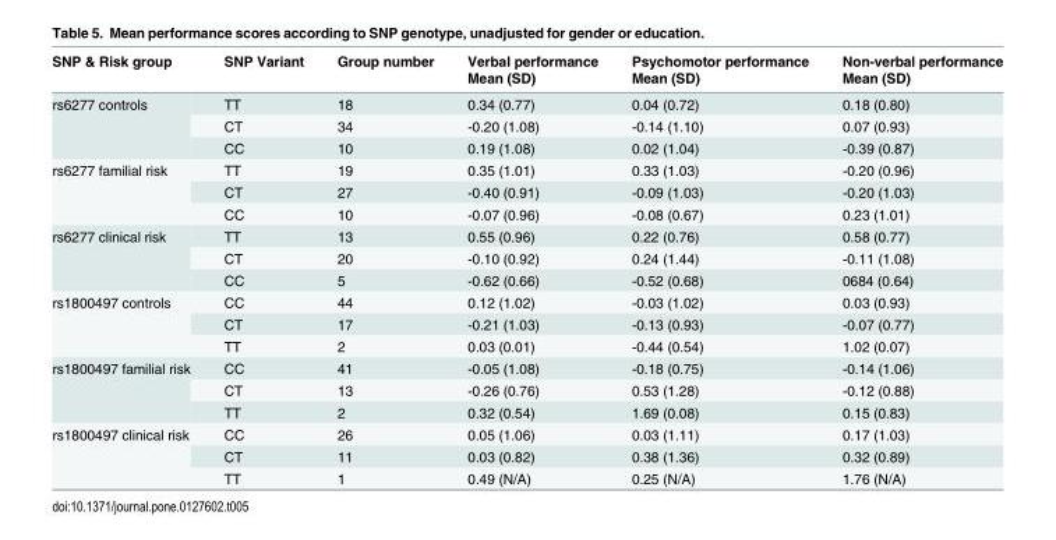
<table><thead><tr><td rowspan="2">SNP &amp; Risk group</td><td rowspan="2">SNP Variant</td><td rowspan="2">Group number</td><td rowspan="2">Verbal performance Mean (SD)</td><td rowspan="2">Psychomotor performance Mean (SD)</td><td rowspan="2">Non-verbal performance Mean (SD)</td></tr><tr></tr></thead><tbody><tr><td rowspan="3">rs6277 controls</td><td>TT</td><td>18</td><td>0.34 (0.77)</td><td>0.04 (0.72)</td><td>0.18 (0.80)</td></tr><tr><td>CT</td><td>34</td><td>-0.20 (1.08)</td><td>-0.14 (1.10)</td><td>0.07 (0.93)</td></tr><tr><td>CC</td><td>10</td><td>0.19 (1.08)</td><td>0.02 (1.04)</td><td>-0.39 (0.87)</td></tr><tr><td rowspan="3">rs6277 familial risk</td><td>TT</td><td>19</td><td>0.35 (1.01)</td><td>0.33 (1.03)</td><td>-0.20 (0.96)</td></tr><tr><td>CT</td><td>27</td><td>-0.40 (0.91)</td><td>-0.09 (1.03)</td><td>-0.20 (1.03)</td></tr><tr><td>CC</td><td>10</td><td>-0.07 (0.96)</td><td>-0.08 (0.67)</td><td>0.23 (1.01)</td></tr><tr><td rowspan="3">rs6277 clinical risk</td><td>TT</td><td>13</td><td>0.55 (0.96)</td><td>0.22 (0.76)</td><td>0.58 (0.77)</td></tr><tr><td>CT</td><td>20</td><td>-0.10 (0.92)</td><td>0.24 (1.44)</td><td>-0.11 (1.08)</td></tr><tr><td>CC</td><td>5</td><td>-0.62 (0.66)</td><td>-0.52 (0.68)</td><td>0684 (0.64)</td></tr><tr><td rowspan="3">rs1800497 controls</td><td>CC</td><td>44</td><td>0.12 (1.02)</td><td>-0.03 (1.02)</td><td>0.03 (0.93)</td></tr><tr><td>CT</td><td>17</td><td>-0.21 (1.03)</td><td>-0.13 (0.93)</td><td>-0.07 (0.77)</td></tr><tr><td>TT</td><td>2</td><td>0.03 (0.01)</td><td>-0.44 (0.54)</td><td>1.02 (0.07)</td></tr><tr><td rowspan="3">rs1800497 familial risk</td><td>CC</td><td>41</td><td>-0.05 (1.08)</td><td>-0.18 (0.75)</td><td>-0.14 (1.06)</td></tr><tr><td>CT</td><td>13</td><td>-0.26 (0.76)</td><td>0.53 (1.28)</td><td>-0.12 (0.88)</td></tr><tr><td>TT</td><td>2</td><td>0.32 (0.54)</td><td>1.69 (0.08)</td><td>0.15 (0.83)</td></tr><tr><td rowspan="3">rs1800497 clinical risk</td><td>CC</td><td>26</td><td>0.05 (1.06)</td><td>0.03 (1.11)</td><td>0.17 (1.03)</td></tr><tr><td>CT</td><td>11</td><td>0.03 (0.82)</td><td>0.38 (1.36)</td><td>0.32 (0.89)</td></tr><tr><td>TT</td><td>1</td><td>0.49 (N/A)</td><td>0.25 (N/A)</td><td>1.76 (N/A)</td></tr></tbody></table>